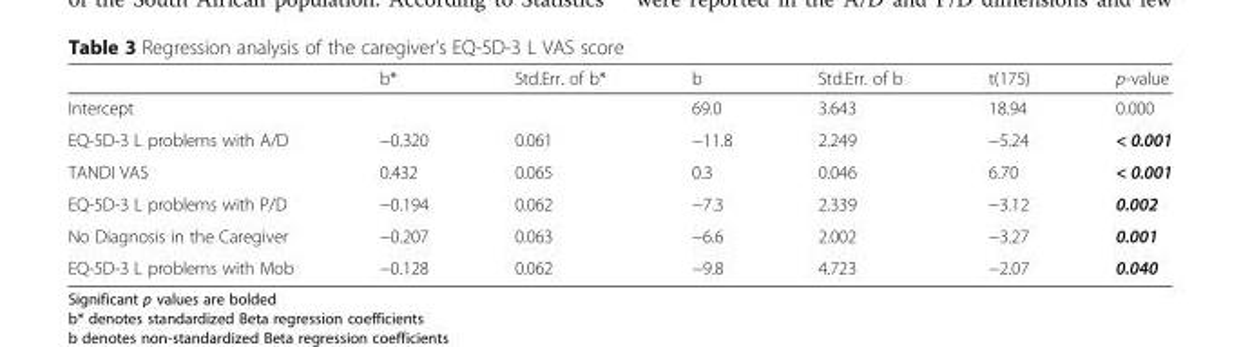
<table><thead><tr><td></td><td>b*</td><td>Std.Err. of b*</td><td>b</td><td>Std.Err. of b</td><td>t(175)</td><td>p-value</td></tr></thead><tbody><tr><td>Intercept</td><td></td><td></td><td>69.0</td><td>3.643</td><td>18.94</td><td>0.000</td></tr><tr><td>EQ-5D-3 L problems with A/D</td><td>−0.320</td><td>0.061</td><td>−11.8</td><td>2.249</td><td>−5.24</td><td>&lt; 0.001</td></tr><tr><td>TANDI VAS</td><td>0.432</td><td>0.065</td><td>0.3</td><td>0.046</td><td>6.70</td><td>&lt; 0.001</td></tr><tr><td>EQ-5D-3 L problems with P/D</td><td>−0.194</td><td>0.062</td><td>−7.3</td><td>2.339</td><td>−3.12</td><td>0.002</td></tr><tr><td>No Diagnosis in the Caregiver</td><td>−0.207</td><td>0.063</td><td>−6.6</td><td>2.002</td><td>−3.27</td><td>0.001</td></tr><tr><td>EQ-5D-3 L problems with Mob</td><td>−0.128</td><td>0.062</td><td>−9.8</td><td>4.723</td><td>−2.07</td><td>0.040</td></tr></tbody></table>